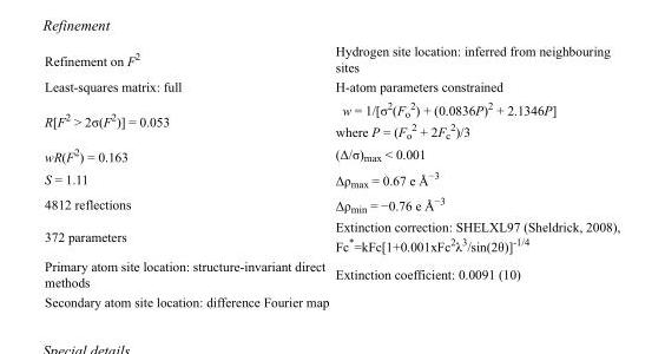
<table><tbody><tr><td>Refinement on F<sup>2</sup></td><td>Hydrogen site location: inferred from neighbouring sites</td></tr><tr><td>Least-squares matrix: full</td><td>H-atom parameters constrained</td></tr><tr><td>R[F<sup>2</sup> &gt; 2σ(F<sup>2</sup>)] = 0.053</td><td>w = 1/[σ<sup>2</sup>(F<sub>o</sub> <sup>2</sup>) + (0.0836P)<sup>2</sup> + 2.1346P] where P = (F<sub>o</sub> <sup>2</sup> + 2F<sub>c</sub> <sup>2</sup>)/3</td></tr><tr><td>wR(F<sup>2</sup>) = 0.163</td><td>(Δ/σ)<sub>max</sub> &lt; 0.001</td></tr><tr><td>S = 1.11</td><td>Δρ<sub>max</sub> = 0.67 e Å<sup>−3</sup></td></tr><tr><td>4812 reflections</td><td>Δρ<sub>min</sub> = −0.76 e Å<sup>−3</sup></td></tr><tr><td>372 parameters</td><td>Extinction correction: SHELXL97 (Sheldrick, 2008), Fc*=kFc[1+0.001xFc<sup>2</sup>λ<sup>3</sup>/sin(2θ)]<sup>-1/4</sup></td></tr><tr><td>Primary atom site location: structure-invariant direct methods</td><td>Extinction coefficient: 0.0091 (10)</td></tr><tr><td>Secondary atom site location: difference Fourier map</td><td></td></tr></tbody></table>